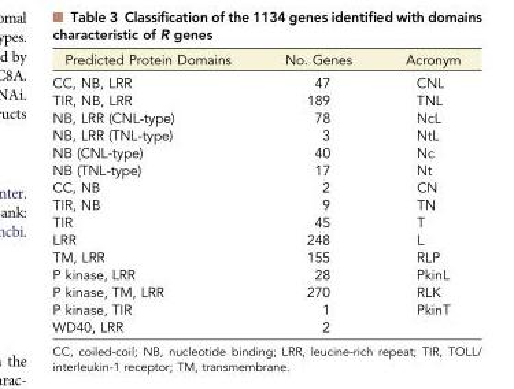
<table><thead><tr><td>Predicted Protein Domains</td><td>No. Genes</td><td>Acronym</td></tr></thead><tbody><tr><td>CC, NB, LRR</td><td>47</td><td>CNL</td></tr><tr><td>TIR, NB, LRR</td><td>189</td><td>TNL</td></tr><tr><td>NB, LRR (CNL-type)</td><td>78</td><td>NcL</td></tr><tr><td>NB, LRR (TNL-type)</td><td>3</td><td>NtL</td></tr><tr><td>NB (CNL-type)</td><td>40</td><td>Nc</td></tr><tr><td>NB (TNL-type)</td><td>17</td><td>Nt</td></tr><tr><td>CC, NB</td><td>2</td><td>CN</td></tr><tr><td>TIR, NB</td><td>9</td><td>TN</td></tr><tr><td>TIR</td><td>45</td><td>T</td></tr><tr><td>LRR</td><td>248</td><td>L</td></tr><tr><td>TM, LRR</td><td>155</td><td>RLP</td></tr><tr><td>P kinase, LRR</td><td>28</td><td>PkinL</td></tr><tr><td>P kinase, TM, LRR</td><td>270</td><td>RLK</td></tr><tr><td>P kinase, TIR</td><td>1</td><td>PkinT</td></tr><tr><td>WD40, LRR</td><td>2</td><td></td></tr></tbody></table>